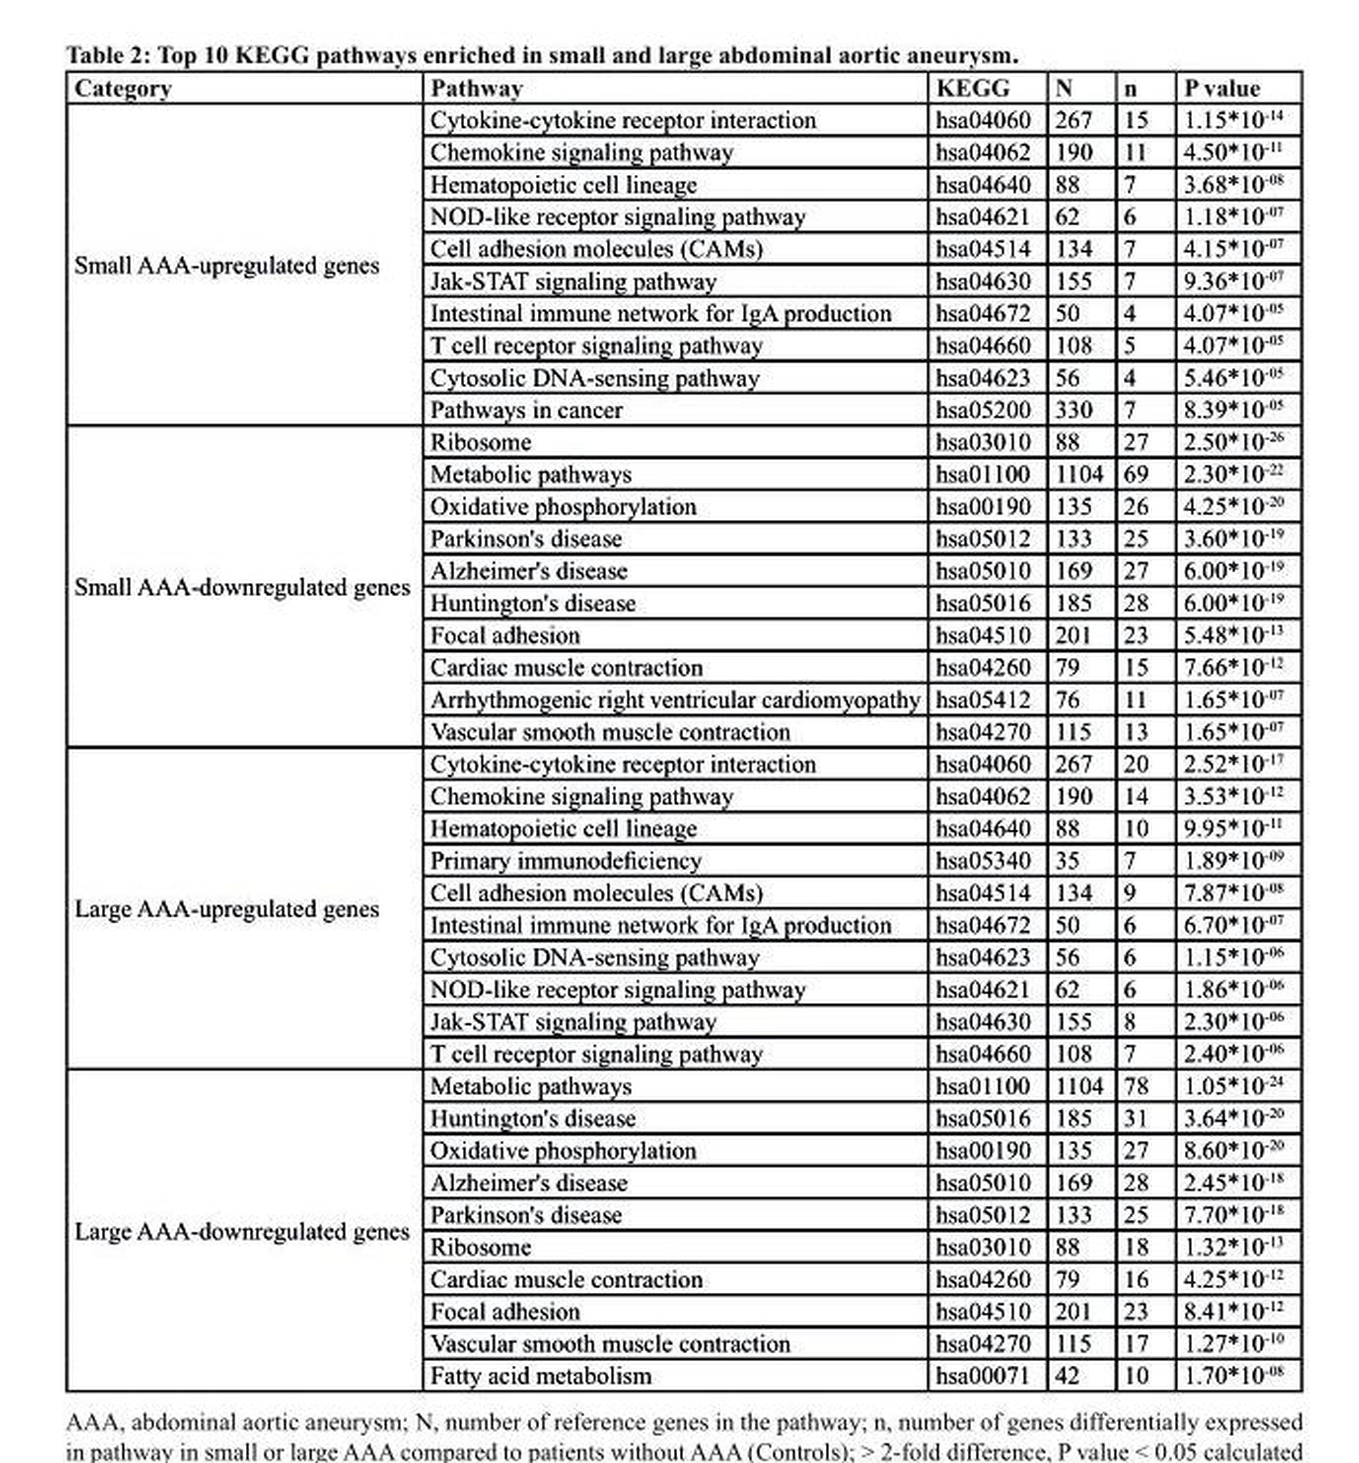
<table><thead><tr><td>category</td><td>Pathway</td><td>KeGG</td><td>n</td><td>n</td><td>P value</td></tr></thead><tbody><tr><td rowspan="10">Small AAA-upregulated genes</td><td>Cytokine-cytokine receptor interaction</td><td>hsa04060</td><td>267</td><td>15</td><td>1.15*10<sup>-14</sup></td></tr><tr><td>Chemokine signaling pathway</td><td>hsa04062</td><td>190</td><td>11</td><td>4.50*10<sup>-11</sup></td></tr><tr><td>Hematopoietic cell lineage</td><td>hsa04640</td><td>88</td><td>7</td><td>3.68*10<sup>-08</sup></td></tr><tr><td>NOD-like receptor signaling pathway</td><td>hsa04621</td><td>62</td><td>6</td><td>1.18*10<sup>-07</sup></td></tr><tr><td>Cell adhesion molecules (CAMs)</td><td>hsa04514</td><td>134</td><td>7</td><td>4.15*10<sup>-07</sup></td></tr><tr><td>Jak-STAT signaling pathway</td><td>hsa04630</td><td>155</td><td>7</td><td>9.36*10<sup>-07</sup></td></tr><tr><td>Intestinal immune network for IgA production</td><td>hsa04672</td><td>50</td><td>4</td><td>4.07*10<sup>-05</sup></td></tr><tr><td>T cell receptor signaling pathway</td><td>hsa04660</td><td>108</td><td>5</td><td>4.07*10<sup>-05</sup></td></tr><tr><td>Cytosolic DNA-sensing pathway</td><td>hsa04623</td><td>56</td><td>4</td><td>5.46*10<sup>-05</sup></td></tr><tr><td>Pathways in cancer</td><td>hsa05200</td><td>330</td><td>7</td><td>8.39*10<sup>-05</sup></td></tr><tr><td rowspan="10">Small AAA-downregulated genes</td><td>Ribosome</td><td>hsa03010</td><td>88</td><td>27</td><td>2.50*10<sup>-26</sup></td></tr><tr><td>Metabolic pathways</td><td>hsa01100</td><td>1104</td><td>69</td><td>2.30*10<sup>-22</sup></td></tr><tr><td>Oxidative phosphorylation</td><td>hsa00190</td><td>135</td><td>26</td><td>4.25*10<sup>-20</sup></td></tr><tr><td>Parkinson&#x27;s disease</td><td>hsa05012</td><td>133</td><td>25</td><td>3.60*10<sup>-19</sup></td></tr><tr><td>Alzheimer&#x27;s disease</td><td>hsa05010</td><td>169</td><td>27</td><td>6.00*10<sup>-19</sup></td></tr><tr><td>Huntington&#x27;s disease</td><td>hsa05016</td><td>185</td><td>28</td><td>6.00*10<sup>-19</sup></td></tr><tr><td>Focal adhesion</td><td>hsa04510</td><td>201</td><td>23</td><td>5.48*10<sup>-13</sup></td></tr><tr><td>Cardiac muscle contraction</td><td>hsa04260</td><td>79</td><td>15</td><td>7.66*10<sup>-12</sup></td></tr><tr><td>Arrhythmogenic right ventricular cardiomyopathy</td><td>hsa05412</td><td>76</td><td>11</td><td>1.65*10<sup>-07</sup></td></tr><tr><td>Vascular smooth muscle contraction</td><td>hsa04270</td><td>115</td><td>13</td><td>1.65*10<sup>-07</sup></td></tr><tr><td rowspan="10">Large AAA-upregulated genes</td><td>Cytokine-cytokine receptor interaction</td><td>hsa04060</td><td>267</td><td>20</td><td>2.52*10<sup>-17</sup></td></tr><tr><td>Chemokine signaling pathway</td><td>hsa04062</td><td>190</td><td>14</td><td>3.53*10<sup>-12</sup></td></tr><tr><td>Hematopoietic cell lineage</td><td>hsa04640</td><td>88</td><td>10</td><td>9.95*10<sup>-11</sup></td></tr><tr><td>Primary immunodeficiency</td><td>hsa05340</td><td>35</td><td>7</td><td>1.89*10<sup>-09</sup></td></tr><tr><td>Cell adhesion molecules (CAMs)</td><td>hsa04514</td><td>134</td><td>9</td><td>7.87*10<sup>-08</sup></td></tr><tr><td>Intestinal immune network for IgA production</td><td>hsa04672</td><td>50</td><td>6</td><td>6.70*10<sup>-07</sup></td></tr><tr><td>Cytosolic DNA-sensing pathway</td><td>hsa04623</td><td>56</td><td>6</td><td>1.15*10<sup>-06</sup></td></tr><tr><td>NOD-like receptor signaling pathway</td><td>hsa04621</td><td>62</td><td>6</td><td>1.86*10<sup>-06</sup></td></tr><tr><td>Jak-STAT signaling pathway</td><td>hsa04630</td><td>155</td><td>8</td><td>2.30*10<sup>-06</sup></td></tr><tr><td>T cell receptor signaling pathway</td><td>hsa04660</td><td>108</td><td>7</td><td>2.40*10<sup>-06</sup></td></tr><tr><td rowspan="10">Large AAA-downregulated genes</td><td>Metabolic pathways</td><td>hsa01100</td><td>1104</td><td>78</td><td>1.05*10<sup>-24</sup></td></tr><tr><td>Huntington&#x27;s disease</td><td>hsa05016</td><td>185</td><td>31</td><td>3.64*10<sup>-20</sup></td></tr><tr><td>Oxidative phosphorylation</td><td>hsa00190</td><td>135</td><td>27</td><td>8.60*10<sup>-20</sup></td></tr><tr><td>Alzheimer&#x27;s disease</td><td>hsa05010</td><td>169</td><td>28</td><td>2.45*10<sup>-18</sup></td></tr><tr><td>Parkinson&#x27;s disease</td><td>hsa05012</td><td>133</td><td>25</td><td>7.70*10<sup>-18</sup></td></tr><tr><td>Ribosome</td><td>hsa03010</td><td>88</td><td>18</td><td>1.32*10<sup>-13</sup></td></tr><tr><td>Cardiac muscle contraction</td><td>hsa04260</td><td>79</td><td>16</td><td>4.25*10<sup>-12</sup></td></tr><tr><td>Focal adhesion</td><td>hsa04510</td><td>201</td><td>23</td><td>8.41*10<sup>-12</sup></td></tr><tr><td>Vascular smooth muscle contraction</td><td>hsa04270</td><td>115</td><td>17</td><td>1.27*10<sup>-10</sup></td></tr><tr><td>Fatty acid metabolism</td><td>hsa00071</td><td>42</td><td>10</td><td>1.70*10<sup>-08</sup></td></tr></tbody></table>